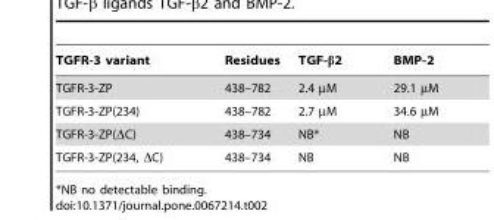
<table><thead><tr><td>TGFR-3 variant</td><td>Residues</td><td>TGF-β2</td><td>BMP-2</td></tr></thead><tbody><tr><td>TGFR-3-ZP</td><td>438–782</td><td>2.4 µM</td><td>29.1 µM</td></tr><tr><td>TGFR-3-ZP(234)</td><td>438–782</td><td>2.7 µM</td><td>34.6 µM</td></tr><tr><td>TGFR-3-ZP(ΔC)</td><td>438–734</td><td>NB*</td><td>NB</td></tr><tr><td>TGFR-3-ZP(234, ΔC)</td><td>438–734</td><td>NB</td><td>NB</td></tr></tbody></table>